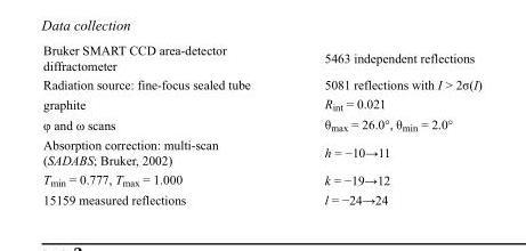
<table><tbody><tr><td>Bruker SMART CCD area-detector diffractometer</td><td>5463 independent reflections</td></tr><tr><td>Radiation source: fine-focus sealed tube</td><td>5081 reflections with I &gt; 2σ(I)</td></tr><tr><td>graphite</td><td>R<sub>int</sub> = 0.021</td></tr><tr><td>φ and ω scans</td><td>θ<sub>max</sub> = 26.0°, θ<sub>min</sub> = 2.0°</td></tr><tr><td>Absorption correction: multi-scan (SADABS; Bruker, 2002)</td><td>h = −10→11</td></tr><tr><td>T<sub>min</sub> = 0.777, T<sub>max</sub> = 1.000</td><td>k = −19→12</td></tr><tr><td>15159 measured reflections</td><td>l = −24→24</td></tr></tbody></table>